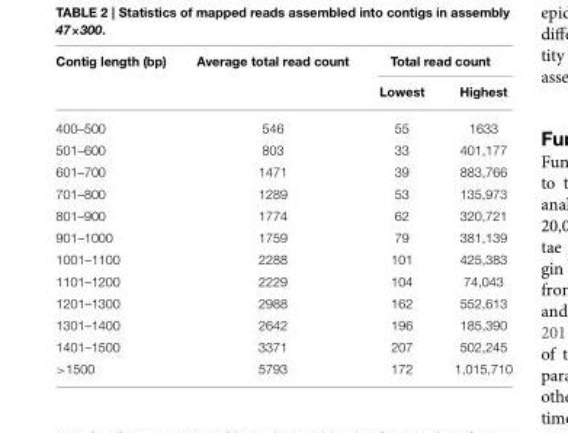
<table><thead><tr><td rowspan="2">Contig length (bp)</td><td rowspan="2">Average total read count</td><td colspan="2">Total read count</td></tr><tr><td>Lowest</td><td>Highest</td></tr></thead><tbody><tr><td>400–500</td><td>546</td><td>55</td><td>1633</td></tr><tr><td>501–600</td><td>803</td><td>33</td><td>401,177</td></tr><tr><td>601–700</td><td>1471</td><td>39</td><td>883,766</td></tr><tr><td>701–800</td><td>1289</td><td>53</td><td>135,973</td></tr><tr><td>801–900</td><td>1774</td><td>62</td><td>320,721</td></tr><tr><td>901–1000</td><td>1759</td><td>79</td><td>381,139</td></tr><tr><td>1001–1100</td><td>2288</td><td>101</td><td>425,383</td></tr><tr><td>1101–1200</td><td>2229</td><td>104</td><td>74,043</td></tr><tr><td>1201–1300</td><td>2988</td><td>162</td><td>552,613</td></tr><tr><td>1301–1400</td><td>2642</td><td>196</td><td>185,390</td></tr><tr><td>1401–1500</td><td>3371</td><td>207</td><td>502,245</td></tr><tr><td>&gt;1500</td><td>5793</td><td>172</td><td>1,015,710</td></tr></tbody></table>